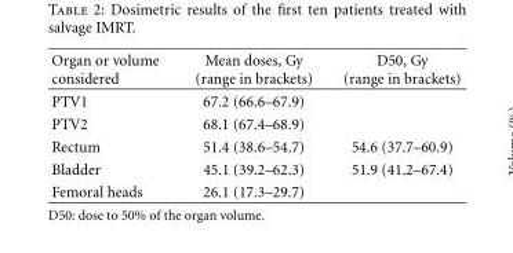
<table><thead><tr><td>Organ or volume considered</td><td>Mean doses, Gy (range in brackets)</td><td>D50, Gy (range in brackets)</td></tr></thead><tbody><tr><td>PTV1</td><td>67.2 (66.6–67.9)</td><td></td></tr><tr><td>PTV2</td><td>68.1 (67.4–68.9)</td><td></td></tr><tr><td>Rectum</td><td>51.4 (38.6–54.7)</td><td>54.6 (37.7–60.9)</td></tr><tr><td>Bladder</td><td>45.1 (39.2–62.3)</td><td>51.9 (41.2–67.4)</td></tr><tr><td>Femoral heads</td><td>26.1 (17.3–29.7)</td><td></td></tr></tbody></table>